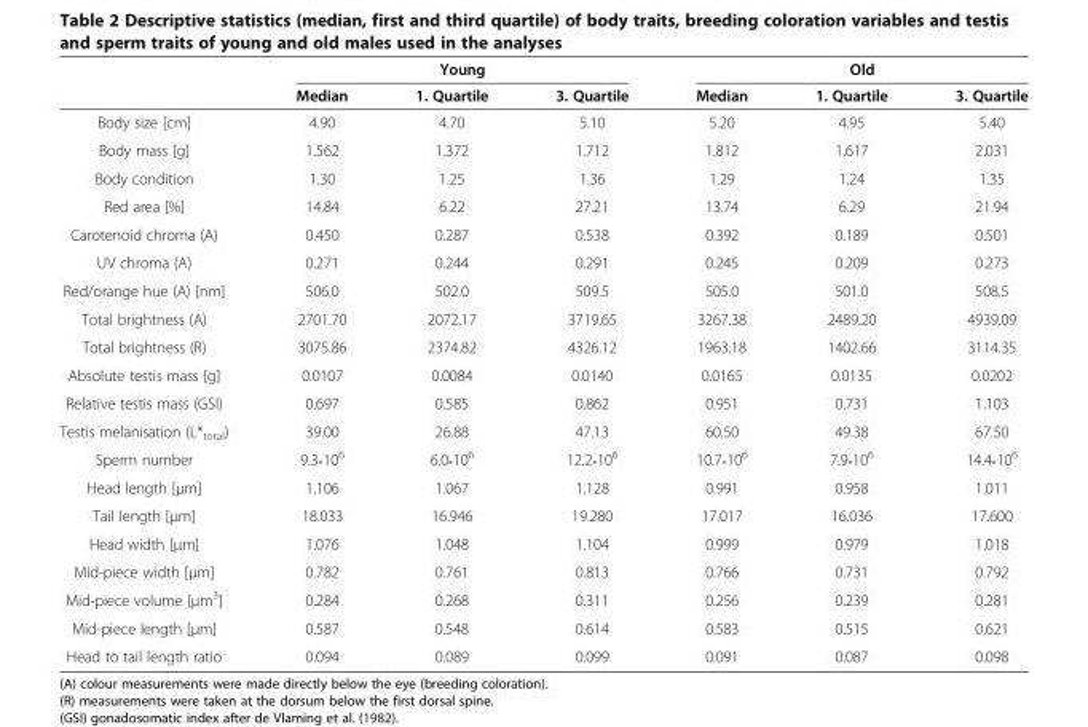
<table><thead><tr><td rowspan="2"></td><td colspan="3">Young</td><td colspan="3">Old</td></tr><tr><td>Median</td><td>1. Quartile</td><td>3. Quartile</td><td>Median</td><td>1. Quartile</td><td>3. Quartile</td></tr></thead><tbody><tr><td>Body size [cm]</td><td>4.90</td><td>4.70</td><td>5.10</td><td>5.20</td><td>4.95</td><td>5.40</td></tr><tr><td>Body mass [g]</td><td>1.562</td><td>1.372</td><td>1.712</td><td>1.812</td><td>1.617</td><td>2.031</td></tr><tr><td>Body condition</td><td>1.30</td><td>1.25</td><td>1.36</td><td>1.29</td><td>1.24</td><td>1.35</td></tr><tr><td>Red area [%]</td><td>14.84</td><td>6.22</td><td>27.21</td><td>13.74</td><td>6.29</td><td>21.94</td></tr><tr><td>Carotenoid chroma (A)</td><td>0.450</td><td>0.287</td><td>0.538</td><td>0.392</td><td>0.189</td><td>0.501</td></tr><tr><td>UV chroma (A)</td><td>0.271</td><td>0.244</td><td>0.291</td><td>0.245</td><td>0.209</td><td>0.273</td></tr><tr><td>Red/orange hue (A) [nm]</td><td>506.0</td><td>502.0</td><td>509.5</td><td>505.0</td><td>501.0</td><td>508.5</td></tr><tr><td>Total brightness (A)</td><td>2701.70</td><td>2072.17</td><td>3719.65</td><td>3267.38</td><td>2489.20</td><td>4939.09</td></tr><tr><td>Total brightness (R)</td><td>3075.86</td><td>2374.82</td><td>4326.12</td><td>1963.18</td><td>1402.66</td><td>3114.35</td></tr><tr><td>Absolute testis mass [g]</td><td>0.0107</td><td>0.0084</td><td>0.0140</td><td>0.0165</td><td>0.0135</td><td>0.0202</td></tr><tr><td>Relative testis mass (GSI)</td><td>0.697</td><td>0.585</td><td>0.862</td><td>0.951</td><td>0.731</td><td>1.103</td></tr><tr><td>Testis melanisation (L*<sub>total</sub>)</td><td>39.00</td><td>26.88</td><td>47.13</td><td>60.50</td><td>49.38</td><td>67.50</td></tr><tr><td>Sperm number</td><td>9.3<sub>*</sub>10<sup>6</sup></td><td>6.0<sub>*</sub>10<sup>6</sup></td><td>12.2<sub>*</sub>10<sup>6</sup></td><td>10.7<sub>*</sub>10<sup>6</sup></td><td>7.9<sub>*</sub>10<sup>6</sup></td><td>14.4<sub>*</sub>10<sup>6</sup></td></tr><tr><td>Head length [μm]</td><td>1.106</td><td>1.067</td><td>1.128</td><td>0.991</td><td>0.958</td><td>1.011</td></tr><tr><td>Tail length [μm]</td><td>18.033</td><td>16.946</td><td>19.280</td><td>17.017</td><td>16.036</td><td>17.600</td></tr><tr><td>Head width [μm]</td><td>1.076</td><td>1.048</td><td>1.104</td><td>0.999</td><td>0.979</td><td>1.018</td></tr><tr><td>Mid-piece width [μm]</td><td>0.782</td><td>0.761</td><td>0.813</td><td>0.766</td><td>0.731</td><td>0.792</td></tr><tr><td>Mid-piece volume [μm<sup>3</sup>]</td><td>0.284</td><td>0.268</td><td>0.311</td><td>0.256</td><td>0.239</td><td>0.281</td></tr><tr><td>Mid-piece length [μm]</td><td>0.587</td><td>0.548</td><td>0.614</td><td>0.583</td><td>0.515</td><td>0.621</td></tr><tr><td>Head to tail length ratio</td><td>0.094</td><td>0.089</td><td>0.099</td><td>0.091</td><td>0.087</td><td>0.098</td></tr></tbody></table>